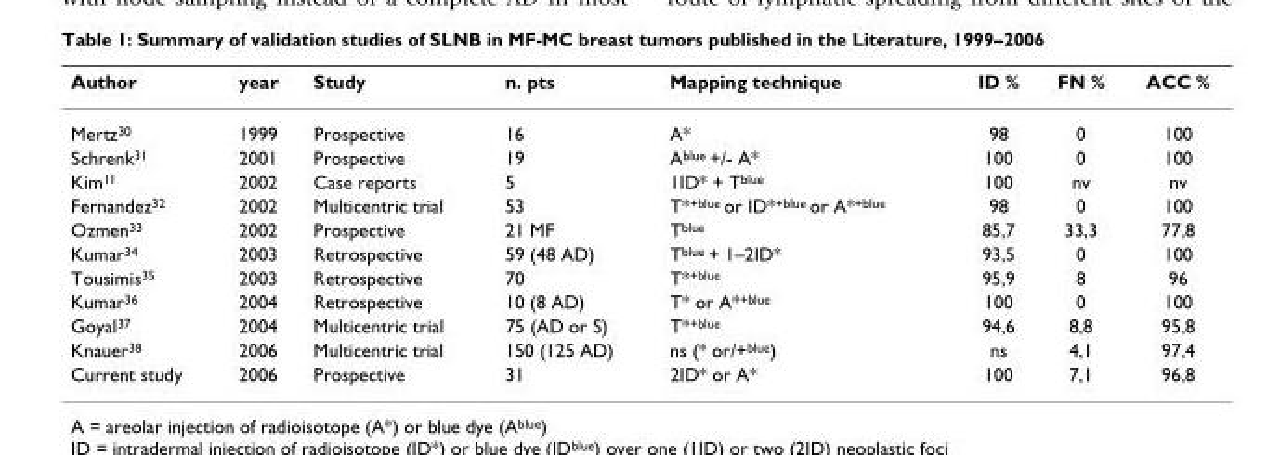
<table><thead><tr><td>Author</td><td>year</td><td>Study</td><td>n. pts</td><td>Mapping technique</td><td>ID %</td><td>FN %</td><td>ACC %</td></tr></thead><tbody><tr><td>Mertz<sup>30</sup></td><td>1999</td><td>Prospective</td><td>16</td><td>A*</td><td>98</td><td>0</td><td>100</td></tr><tr><td>Schrenk<sup>31</sup></td><td>2001</td><td>Prospective</td><td>19</td><td>A<sup>blue</sup> +/- A*</td><td>100</td><td>0</td><td>100</td></tr><tr><td>Kim<sup>11</sup></td><td>2002</td><td>Case reports</td><td>5</td><td>1ID* + T<sup>blue</sup></td><td>100</td><td>nv</td><td>nv</td></tr><tr><td>Fernandez<sup>32</sup></td><td>2002</td><td>Multicentric trial</td><td>53</td><td>T*<sup>+blue</sup> or ID*<sup>+blue</sup> or A*<sup>+blue</sup></td><td>98</td><td>0</td><td>100</td></tr><tr><td>Ozmen<sup>33</sup></td><td>2002</td><td>Prospective</td><td>21 MF</td><td>T<sup>blue</sup></td><td>85,7</td><td>33,3</td><td>77,8</td></tr><tr><td>Kumar<sup>34</sup></td><td>2003</td><td>Retrospective</td><td>59 (48 AD)</td><td>T<sup>blue</sup> + 1–2ID*</td><td>93,5</td><td>0</td><td>100</td></tr><tr><td>Tousimis<sup>35</sup></td><td>2003</td><td>Retrospective</td><td>70</td><td>T*<sup>+blue</sup></td><td>95,9</td><td>8</td><td>96</td></tr><tr><td>Kumar<sup>36</sup></td><td>2004</td><td>Retrospective</td><td>10 (8 AD)</td><td>T* or A*<sup>+blue</sup></td><td>100</td><td>0</td><td>100</td></tr><tr><td>Goyal<sup>37</sup></td><td>2004</td><td>Multicentric trial</td><td>75 (AD or S)</td><td>T*<sup>+blue</sup></td><td>94,6</td><td>8,8</td><td>95,8</td></tr><tr><td>Knauer<sup>38</sup></td><td>2006</td><td>Multicentric trial</td><td>150 (125 AD)</td><td>ns (* or/+<sup>blue</sup>)</td><td>ns</td><td>4,1</td><td>97,4</td></tr><tr><td>Current study</td><td>2006</td><td>Prospective</td><td>31</td><td>2ID* or A*</td><td>100</td><td>7,1</td><td>96,8</td></tr></tbody></table>